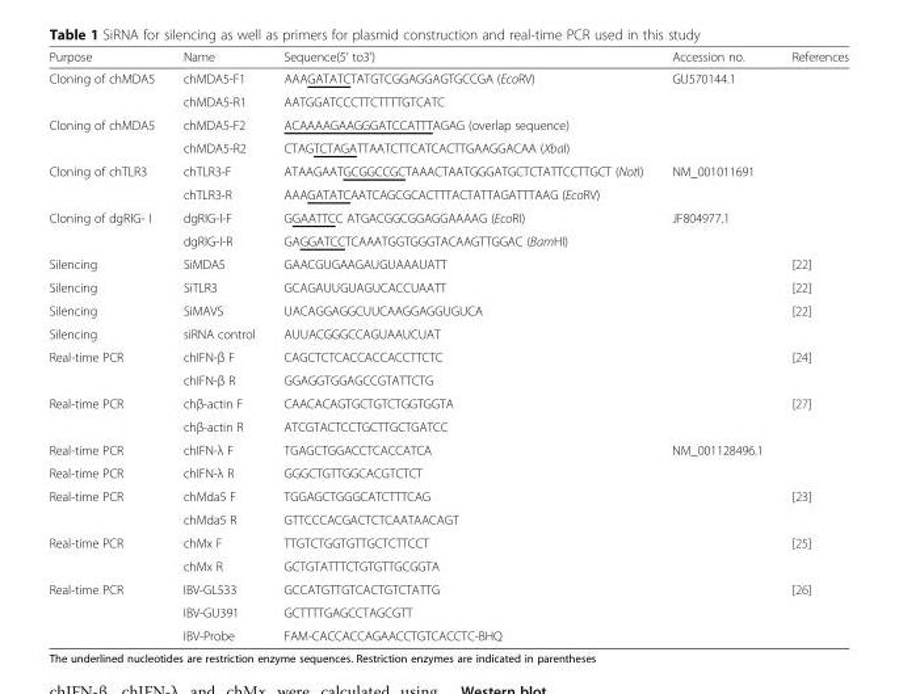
<table><thead><tr><td>Purpose</td><td>Name</td><td>Sequence(5’ to3’)</td><td>Accession no.</td><td>References</td></tr></thead><tbody><tr><td rowspan="2">Cloning of chMDA5</td><td>chMDA5-F1</td><td>AAAGATATCTATGTCGGAGGAGTGCCGA (EcoRV)</td><td>GU570144.1</td><td></td></tr><tr><td>chMDA5-R1</td><td>AATGGATCCCTTCTTTTGTCATC</td><td></td><td></td></tr><tr><td rowspan="2">Cloning of chMDA5</td><td>chMDA5-F2</td><td>ACAAAAGAAGGGATCCATTTAGAG (overlap sequence)</td><td></td><td></td></tr><tr><td>chMDA5-R2</td><td>CTAGTCTAGATTAATCTTCATCACTTGAAGGACAA (XbaI)</td><td></td><td></td></tr><tr><td rowspan="2">Cloning of chTLR3</td><td>chTLR3-F</td><td>ATAAGAATGCGGCCGCTAAACTAATGGGATGCTCTATTCCTTGCT (NotI)</td><td>NM_001011691</td><td></td></tr><tr><td>chTLR3-R</td><td>AAAGATATCAATCAGCGCACTTTACTATTAGATTTAAG (EcoRV)</td><td></td><td></td></tr><tr><td rowspan="2">Cloning of dgRIG- I</td><td>dgRIG-I-F</td><td>GGAATTCC ATGACGGCGGAGGAAAAG (EcoRI)</td><td>JF804977.1</td><td></td></tr><tr><td>dgRIG-I-R</td><td>GAGGATCCTCAAATGGTGGGTACAAGTTGGAC (BamHI)</td><td></td><td></td></tr><tr><td>Silencing</td><td>SiMDA5</td><td>GAACGUGAAGAUGUAAAUATT</td><td></td><td>[22]</td></tr><tr><td>Silencing</td><td>SiTLR3</td><td>GCAGAUUGUAGUCACCUAATT</td><td></td><td>[22]</td></tr><tr><td>Silencing</td><td>SiMAVS</td><td>UACAGGAGGCUUCAAGGAGGUGUCA</td><td></td><td>[22]</td></tr><tr><td>Silencing</td><td>siRNA control</td><td>AUUACGGGCCAGUAAUCUAT</td><td></td><td></td></tr><tr><td rowspan="2">Real-time PCR</td><td>chIFN-β F</td><td>CAGCTCTCACCACCACCTTCTC</td><td></td><td>[24]</td></tr><tr><td>chIFN-β R</td><td>GGAGGTGGAGCCGTATTCTG</td><td></td><td></td></tr><tr><td rowspan="2">Real-time PCR</td><td>chβ-actin F</td><td>CAACACAGTGCTGTCTGGTGGTA</td><td></td><td>[27]</td></tr><tr><td>chβ-actin R</td><td>ATCGTACTCCTGCTTGCTGATCC</td><td></td><td></td></tr><tr><td>Real-time PCR</td><td>chIFN-λ F</td><td>TGAGCTGGACCTCACCATCA</td><td>NM_001128496.1</td><td></td></tr><tr><td>Real-time PCR</td><td>chIFN-λ R</td><td>GGGCTGTTGGCACGTCTCT</td><td></td><td></td></tr><tr><td rowspan="2">Real-time PCR</td><td>chMda5 F</td><td>TGGAGCTGGGCATCTTTCAG</td><td></td><td>[23]</td></tr><tr><td>chMda5 R</td><td>GTTCCCACGACTCTCAATAACAGT</td><td></td><td></td></tr><tr><td rowspan="2">Real-time PCR</td><td>chMx F</td><td>TTGTCTGGTGTTGCTCTTCCT</td><td></td><td>[25]</td></tr><tr><td>chMx R</td><td>GCTGTATTTCTGTGTTGCGGTA</td><td></td><td></td></tr><tr><td rowspan="3">Real-time PCR</td><td>IBV-GL533</td><td>GCCATGTTGTCACTGTCTATTG</td><td></td><td>[26]</td></tr><tr><td>IBV-GU391</td><td>GCTTTTGAGCCTAGCGTT</td><td></td><td></td></tr><tr><td>IBV-Probe</td><td>FAM-CACCACCAGAACCTGTCACCTC-BHQ</td><td></td><td></td></tr></tbody></table>